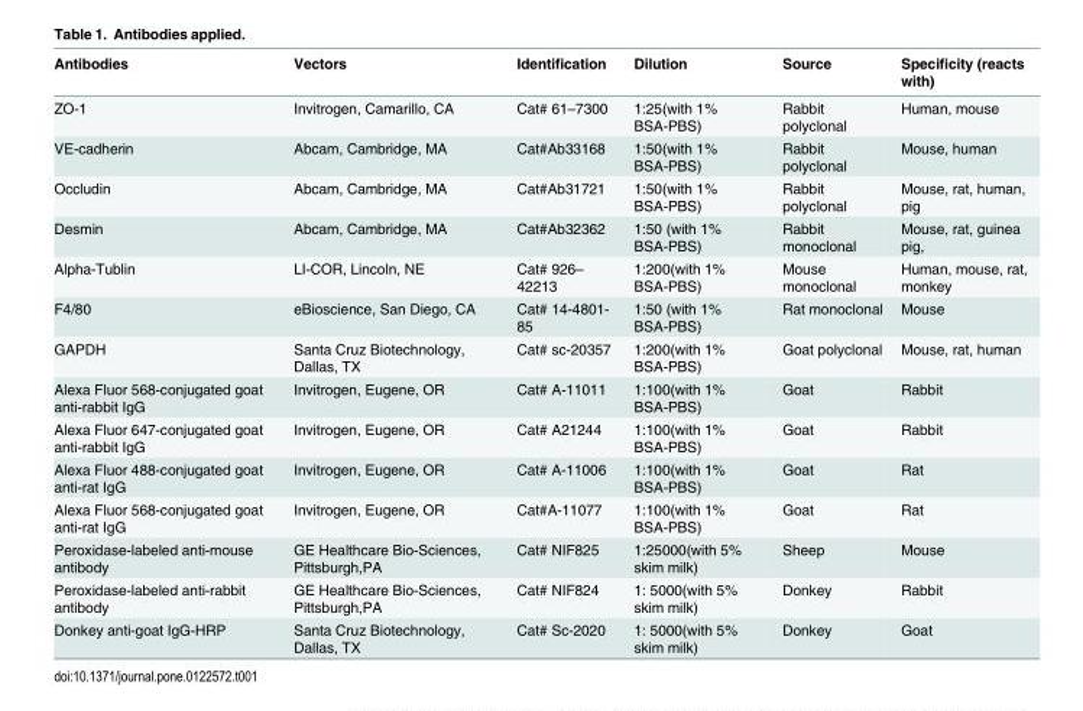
<table><thead><tr><td>Antibodies</td><td>Vectors</td><td>Identification</td><td>Dilution</td><td>Source</td><td>Specificity (reacts with)</td></tr></thead><tbody><tr><td>ZO-1</td><td>Invitrogen, Camarillo, CA</td><td>Cat# 61–7300</td><td>1:25(with 1% BSA-PBS)</td><td>Rabbit polyclonal</td><td>Human, mouse</td></tr><tr><td>VE-cadherin</td><td>Abcam, Cambridge, MA</td><td>Cat#Ab33168</td><td>1:50(with 1% BSA-PBS)</td><td>Rabbit polyclonal</td><td>Mouse, human</td></tr><tr><td>Occludin</td><td>Abcam, Cambridge, MA</td><td>Cat#Ab31721</td><td>1:50(with 1% BSA-PBS)</td><td>Rabbit polyclonal</td><td>Mouse, rat, human, pig</td></tr><tr><td>Desmin</td><td>Abcam, Cambridge, MA</td><td>Cat#Ab32362</td><td>1:50 (with 1% BSA-PBS)</td><td>Rabbit monoclonal</td><td>Mouse, rat, guinea pig,</td></tr><tr><td>Alpha-Tublin</td><td>LI-COR, Lincoln, NE</td><td>Cat# 926– 42213</td><td>1:200(with 1% BSA-PBS)</td><td>Mouse monoclonal</td><td>Human, mouse, rat, monkey</td></tr><tr><td>F4/80</td><td>eBioscience, San Diego, CA</td><td>Cat# 14-4801- 85</td><td>1:50 (with 1% BSA-PBS)</td><td>Rat monoclonal</td><td>Mouse</td></tr><tr><td>GAPDH</td><td>Santa Cruz Biotechnology, Dallas, TX</td><td>Cat# sc-20357</td><td>1:200(with 1% BSA-PBS)</td><td>Goat polyclonal</td><td>Mouse, rat, human</td></tr><tr><td>Alexa Fluor 568-conjugated goat anti-rabbit IgG</td><td>Invitrogen, Eugene, OR</td><td>Cat# A-11011</td><td>1:100(with 1% BSA-PBS)</td><td>Goat</td><td>Rabbit</td></tr><tr><td>Alexa Fluor 647-conjugated goat anti-rabbit IgG</td><td>Invitrogen, Eugene, OR</td><td>Cat# A21244</td><td>1:100(with 1% BSA-PBS)</td><td>Goat</td><td>Rabbit</td></tr><tr><td>Alexa Fluor 488-conjugated goat anti-rat IgG</td><td>Invitrogen, Eugene, OR</td><td>Cat# A-11006</td><td>1:100(with 1% BSA-PBS)</td><td>Goat</td><td>Rat</td></tr><tr><td>Alexa Fluor 568-conjugated goat anti-rat IgG</td><td>Invitrogen, Eugene, OR</td><td>Cat#A-11077</td><td>1:100(with 1% BSA-PBS)</td><td>Goat</td><td>Rat</td></tr><tr><td>Peroxidase-labeled anti-mouse antibody</td><td>GE Healthcare Bio-Sciences, Pittsburgh,PA</td><td>Cat# NIF825</td><td>1:25000(with 5% skim milk)</td><td>Sheep</td><td>Mouse</td></tr><tr><td>Peroxidase-labeled anti-rabbit antibody</td><td>GE Healthcare Bio-Sciences, Pittsburgh,PA</td><td>Cat# NIF824</td><td>1: 5000(with 5% skim milk)</td><td>Donkey</td><td>Rabbit</td></tr><tr><td>Donkey anti-goat IgG-HRP</td><td>Santa Cruz Biotechnology, Dallas, TX</td><td>Cat# Sc-2020</td><td>1: 5000(with 5% skim milk)</td><td>Donkey</td><td>Goat</td></tr></tbody></table>